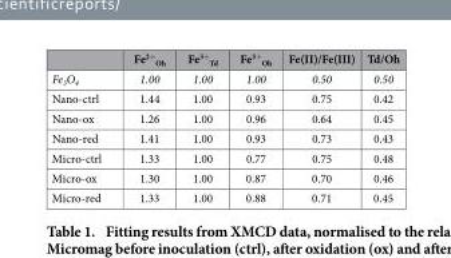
<table><thead><tr><td></td><td>Fe<sup>2+</sup> <sub>Oh</sub></td><td>Fe<sup>3+</sup> <sub>Td</sub></td><td>Fe<sup>3+</sup> <sub>Oh</sub></td><td>Fe(II)/Fe(III)</td><td>Td/Oh</td></tr></thead><tbody><tr><td>Fe<sub>3</sub>O<sub>4</sub></td><td>1.00</td><td>1.00</td><td>1.00</td><td>0.50</td><td>0.50</td></tr><tr><td>Nano-ctrl</td><td>1.44</td><td>1.00</td><td>0.93</td><td>0.75</td><td>0.42</td></tr><tr><td>Nano-ox</td><td>1.26</td><td>1.00</td><td>0.96</td><td>0.64</td><td>0.45</td></tr><tr><td>Nano-red</td><td>1.41</td><td>1.00</td><td>0.93</td><td>0.73</td><td>0.43</td></tr><tr><td>Micro-ctrl</td><td>1.33</td><td>1.00</td><td>0.77</td><td>0.75</td><td>0.48</td></tr><tr><td>Micro-ox</td><td>1.30</td><td>1.00</td><td>0.87</td><td>0.70</td><td>0.46</td></tr><tr><td>Micro-red</td><td>1.33</td><td>1.00</td><td>0.88</td><td>0.71</td><td>0.45</td></tr></tbody></table>